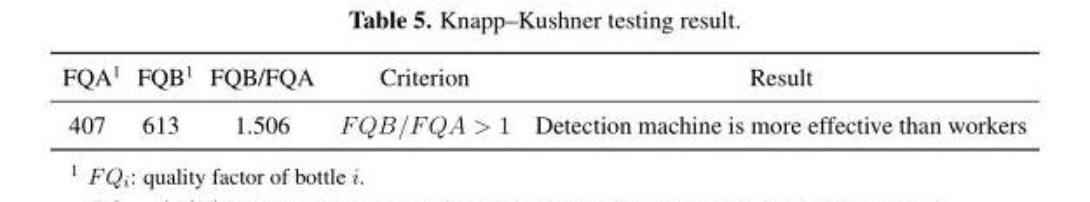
<table><thead><tr><td>FQA<sup>1</sup></td><td>FQB<sup>1</sup></td><td>FQB/FQA</td><td>Criterion</td><td>Result</td></tr></thead><tbody><tr><td>407</td><td>613</td><td>1.506</td><td>FQB/FQA &gt; 1</td><td>Detection machine is more effective than workers</td></tr></tbody></table>